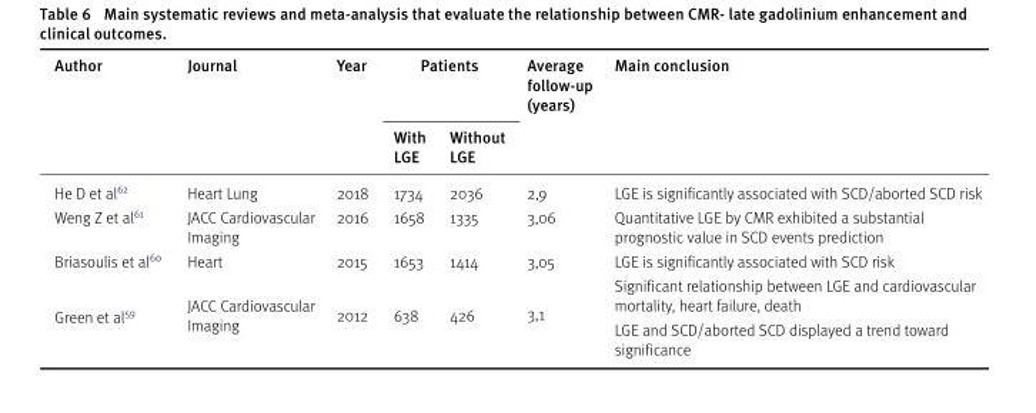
<table><thead><tr><td rowspan="2">Author</td><td rowspan="2">Journal</td><td rowspan="2">Year</td><td colspan="2">Patients</td><td rowspan="2">Average follow-up (years)</td><td rowspan="2">Main conclusion</td></tr><tr><td>With LGE</td><td>Without LGE</td></tr></thead><tbody><tr><td>He D et al<sup>62</sup></td><td>Heart Lung</td><td>2018</td><td>1734</td><td>2036</td><td>2,9</td><td>LGE is significantly associated with SCD/aborted SCD risk</td></tr><tr><td>Weng Z et al<sup>61</sup></td><td>JACC Cardiovascular Imaging</td><td>2016</td><td>1658</td><td>1335</td><td>3,06</td><td>Quantitative LGE by CMR exhibited a substantial prognostic value in SCD events prediction</td></tr><tr><td>Briasoulis et al<sup>60</sup></td><td>Heart</td><td>2015</td><td>1653</td><td>1414</td><td>3,05</td><td>LGE is significantly associated with SCD risk</td></tr><tr><td rowspan="2">Green et al<sup>59</sup></td><td rowspan="2">JACC Cardiovascular Imaging</td><td rowspan="2">2012</td><td rowspan="2">638</td><td rowspan="2">426</td><td rowspan="2">3,1</td><td>Significant relationship between LGE and cardiovascular mortality, heart failure, death</td></tr><tr><td>LGE and SCD/aborted SCD displayed a trend toward significance</td></tr></tbody></table>